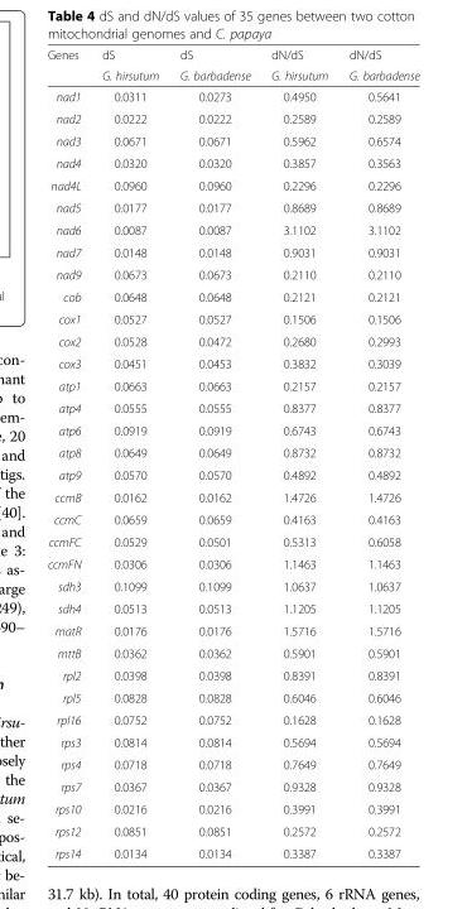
<table><thead><tr><td rowspan="2">Genes</td><td rowspan="2">dS G. hirsutum</td><td rowspan="2">dS G. barbadense</td><td rowspan="2">dN/dS G. hirsutum</td><td rowspan="2">dN/dS G. barbadense</td></tr><tr></tr></thead><tbody><tr><td>nad1</td><td>0.0311</td><td>0.0273</td><td>0.4950</td><td>0.5641</td></tr><tr><td>nad2</td><td>0.0222</td><td>0.0222</td><td>0.2589</td><td>0.2589</td></tr><tr><td>nad3</td><td>0.0671</td><td>0.0671</td><td>0.5962</td><td>0.6574</td></tr><tr><td>nad4</td><td>0.0320</td><td>0.0320</td><td>0.3857</td><td>0.3563</td></tr><tr><td>nad4L</td><td>0.0960</td><td>0.0960</td><td>0.2296</td><td>0.2296</td></tr><tr><td>nad5</td><td>0.0177</td><td>0.0177</td><td>0.8689</td><td>0.8689</td></tr><tr><td>nad6</td><td>0.0087</td><td>0.0087</td><td>3.1102</td><td>3.1102</td></tr><tr><td>nad7</td><td>0.0148</td><td>0.0148</td><td>0.9031</td><td>0.9031</td></tr><tr><td>nad9</td><td>0.0673</td><td>0.0673</td><td>0.2110</td><td>0.2110</td></tr><tr><td>cob</td><td>0.0648</td><td>0.0648</td><td>0.2121</td><td>0.2121</td></tr><tr><td>cox1</td><td>0.0527</td><td>0.0527</td><td>0.1506</td><td>0.1506</td></tr><tr><td>cox2</td><td>0.0528</td><td>0.0472</td><td>0.2680</td><td>0.2993</td></tr><tr><td>cox3</td><td>0.0451</td><td>0.0453</td><td>0.3832</td><td>0.3039</td></tr><tr><td>atp1</td><td>0.0663</td><td>0.0663</td><td>0.2157</td><td>0.2157</td></tr><tr><td>atp4</td><td>0.0555</td><td>0.0555</td><td>0.8377</td><td>0.8377</td></tr><tr><td>atp6</td><td>0.0919</td><td>0.0919</td><td>0.6743</td><td>0.6743</td></tr><tr><td>atp8</td><td>0.0649</td><td>0.0649</td><td>0.8732</td><td>0.8732</td></tr><tr><td>atp9</td><td>0.0570</td><td>0.0570</td><td>0.4892</td><td>0.4892</td></tr><tr><td>ccmB</td><td>0.0162</td><td>0.0162</td><td>1.4726</td><td>1.4726</td></tr><tr><td>ccmC</td><td>0.0659</td><td>0.0659</td><td>0.4163</td><td>0.4163</td></tr><tr><td>ccmFC</td><td>0.0529</td><td>0.0501</td><td>0.5313</td><td>0.6058</td></tr><tr><td>ccmFN</td><td>0.0306</td><td>0.0306</td><td>1.1463</td><td>1.1463</td></tr><tr><td>sdh3</td><td>0.1099</td><td>0.1099</td><td>1.0637</td><td>1.0637</td></tr><tr><td>sdh4</td><td>0.0513</td><td>0.0513</td><td>1.1205</td><td>1.1205</td></tr><tr><td>matR</td><td>0.0176</td><td>0.0176</td><td>1.5716</td><td>1.5716</td></tr><tr><td>mttB</td><td>0.0362</td><td>0.0362</td><td>0.5901</td><td>0.5901</td></tr><tr><td>rpl2</td><td>0.0398</td><td>0.0398</td><td>0.8391</td><td>0.8391</td></tr><tr><td>rpl5</td><td>0.0828</td><td>0.0828</td><td>0.6046</td><td>0.6046</td></tr><tr><td>rpl16</td><td>0.0752</td><td>0.0752</td><td>0.1628</td><td>0.1628</td></tr><tr><td>rps3</td><td>0.0814</td><td>0.0814</td><td>0.5694</td><td>0.5694</td></tr><tr><td>rps4</td><td>0.0718</td><td>0.0718</td><td>0.7649</td><td>0.7649</td></tr><tr><td>rps7</td><td>0.0367</td><td>0.0367</td><td>0.9328</td><td>0.9328</td></tr><tr><td>rps10</td><td>0.0216</td><td>0.0216</td><td>0.3991</td><td>0.3991</td></tr><tr><td>rps12</td><td>0.0851</td><td>0.0851</td><td>0.2572</td><td>0.2572</td></tr><tr><td>rps14</td><td>0.0134</td><td>0.0134</td><td>0.3387</td><td>0.3387</td></tr></tbody></table>